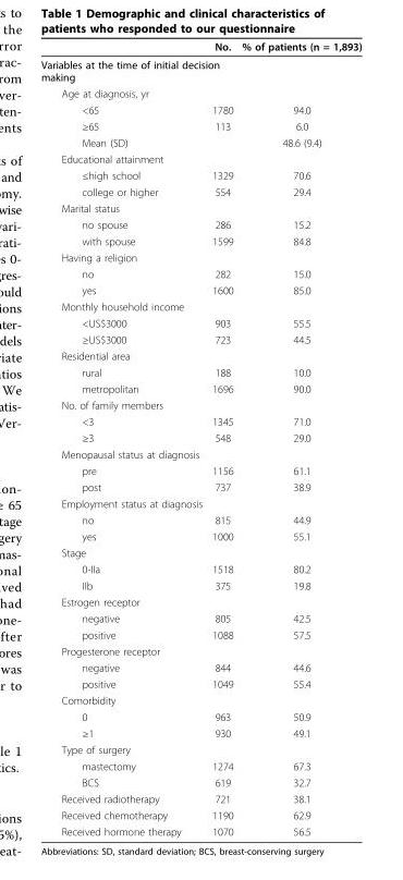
<table><thead><tr><td></td><td>No.</td><td>% of patients (n = 1,893)</td></tr></thead><tbody><tr><td colspan="3">Variables at the time of initial decision making</td></tr><tr><td colspan="3">Age at diagnosis, yr</td></tr><tr><td>&lt;65</td><td>1780</td><td>94.0</td></tr><tr><td>≥65</td><td>113</td><td>6.0</td></tr><tr><td>Mean (SD)</td><td></td><td>48.6 (9.4)</td></tr><tr><td colspan="3">Educational attainment</td></tr><tr><td>≤high school</td><td>1329</td><td>70.6</td></tr><tr><td>college or higher</td><td>554</td><td>29.4</td></tr><tr><td colspan="3">Marital status</td></tr><tr><td>no spouse</td><td>286</td><td>15.2</td></tr><tr><td>with spouse</td><td>1599</td><td>84.8</td></tr><tr><td colspan="3">Having a religion</td></tr><tr><td>no</td><td>282</td><td>15.0</td></tr><tr><td>yes</td><td>1600</td><td>85.0</td></tr><tr><td colspan="3">Monthly household income</td></tr><tr><td>&lt;US$3000</td><td>903</td><td>55.5</td></tr><tr><td>≥US$3000</td><td>723</td><td>44.5</td></tr><tr><td colspan="3">Residential area</td></tr><tr><td>rural</td><td>188</td><td>10.0</td></tr><tr><td>metropolitan</td><td>1696</td><td>90.0</td></tr><tr><td colspan="3">No. of family members</td></tr><tr><td>&lt;3</td><td>1345</td><td>71.0</td></tr><tr><td>≥3</td><td>548</td><td>29.0</td></tr><tr><td colspan="3">Menopausal status at diagnosis</td></tr><tr><td>pre</td><td>1156</td><td>61.1</td></tr><tr><td>post</td><td>737</td><td>38.9</td></tr><tr><td colspan="3">Employment status at diagnosis</td></tr><tr><td>no</td><td>815</td><td>44.9</td></tr><tr><td>yes</td><td>1000</td><td>55.1</td></tr><tr><td colspan="3">Stage</td></tr><tr><td>0-IIa</td><td>1518</td><td>80.2</td></tr><tr><td>IIb</td><td>375</td><td>19.8</td></tr><tr><td colspan="3">Estrogen receptor</td></tr><tr><td>negative</td><td>805</td><td>42.5</td></tr><tr><td>positive</td><td>1088</td><td>57.5</td></tr><tr><td colspan="3">Progesterone receptor</td></tr><tr><td>negative</td><td>844</td><td>44.6</td></tr><tr><td>positive</td><td>1049</td><td>55.4</td></tr><tr><td colspan="3">Comorbidity</td></tr><tr><td>0</td><td>963</td><td>50.9</td></tr><tr><td>≥1</td><td>930</td><td>49.1</td></tr><tr><td colspan="3">Type of surgery</td></tr><tr><td>mastectomy</td><td>1274</td><td>67.3</td></tr><tr><td>BCS</td><td>619</td><td>32.7</td></tr><tr><td>Received radiotherapy</td><td>721</td><td>38.1</td></tr><tr><td>Received chemotherapy</td><td>1190</td><td>62.9</td></tr><tr><td>Received hormone therapy</td><td>1070</td><td>56.5</td></tr></tbody></table>